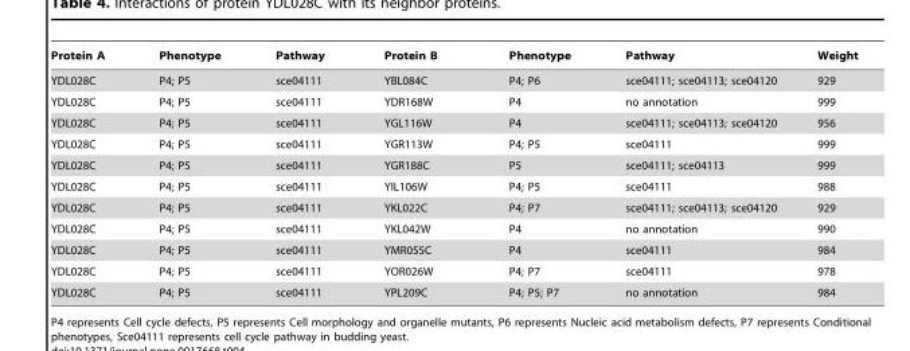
<table><thead><tr><td>Protein A</td><td>Phenotype</td><td>Pathway</td><td>Protein B</td><td>Phenotype</td><td>Pathway</td><td>Weight</td></tr></thead><tbody><tr><td>YDL028C</td><td>P4; P5</td><td>sce04111</td><td>YBL084C</td><td>P4; P6</td><td>sce04111; sce04113; sce04120</td><td>929</td></tr><tr><td>YDL028C</td><td>P4; P5</td><td>sce04111</td><td>YDR168W</td><td>P4</td><td>no annotation</td><td>999</td></tr><tr><td>YDL028C</td><td>P4; P5</td><td>sce04111</td><td>YGL116W</td><td>P4</td><td>sce04111; sce04113; sce04120</td><td>956</td></tr><tr><td>YDL028C</td><td>P4; P5</td><td>sce04111</td><td>YGR113W</td><td>P4; P5</td><td>sce04111</td><td>999</td></tr><tr><td>YDL028C</td><td>P4; P5</td><td>sce04111</td><td>YGR188C</td><td>P5</td><td>sce04111; sce04113</td><td>999</td></tr><tr><td>YDL028C</td><td>P4; P5</td><td>sce04111</td><td>YIL106W</td><td>P4; P5</td><td>sce04111</td><td>988</td></tr><tr><td>YDL028C</td><td>P4; P5</td><td>sce04111</td><td>YKL022C</td><td>P4; P7</td><td>sce04111; sce04113; sce04120</td><td>929</td></tr><tr><td>YDL028C</td><td>P4; P5</td><td>sce04111</td><td>YKL042W</td><td>P4</td><td>no annotation</td><td>990</td></tr><tr><td>YDL028C</td><td>P4; P5</td><td>sce04111</td><td>YMR055C</td><td>P4</td><td>sce04111</td><td>984</td></tr><tr><td>YDL028C</td><td>P4; P5</td><td>sce04111</td><td>YOR026W</td><td>P4; P7</td><td>sce04111</td><td>978</td></tr><tr><td>YDL028C</td><td>P4; P5</td><td>sce04111</td><td>YPL209C</td><td>P4; P5; P7</td><td>no annotation</td><td>984</td></tr></tbody></table>